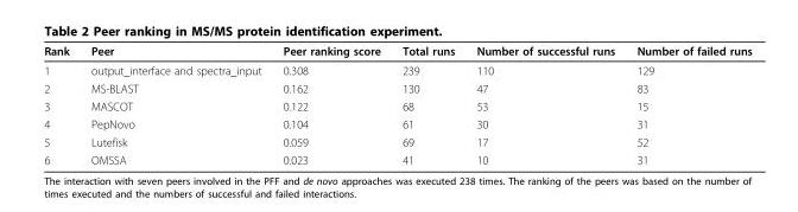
<table><thead><tr><td>Rank</td><td>Peer</td><td>Peer ranking score</td><td>Total runs</td><td>Number of successful runs</td><td>Number of failed runs</td></tr></thead><tbody><tr><td>1</td><td>output_interface and spectra_input</td><td>0.308</td><td>239</td><td>110</td><td>129</td></tr><tr><td>2</td><td>MS-BLAST</td><td>0.162</td><td>130</td><td>47</td><td>83</td></tr><tr><td>3</td><td>MASCOT</td><td>0.122</td><td>68</td><td>53</td><td>15</td></tr><tr><td>4</td><td>PepNovo</td><td>0.104</td><td>61</td><td>30</td><td>31</td></tr><tr><td>5</td><td>Lutefisk</td><td>0.059</td><td>69</td><td>17</td><td>52</td></tr><tr><td>6</td><td>OMSSA</td><td>0.023</td><td>41</td><td>10</td><td>31</td></tr></tbody></table>